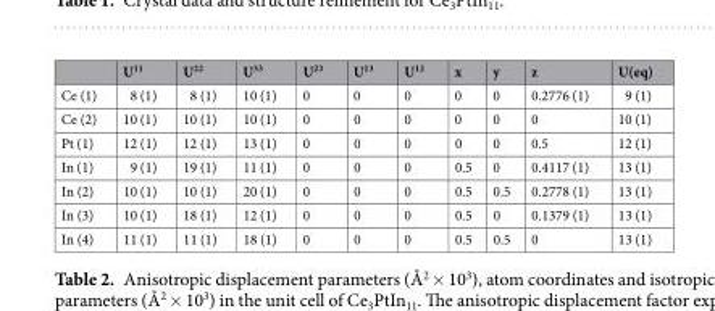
<table><thead><tr><td></td><td>U<sup>11</sup></td><td>U<sup>22</sup></td><td>U<sup>33</sup></td><td>U<sup>23</sup></td><td>U<sup>13</sup></td><td>U<sup>12</sup></td><td>x</td><td>y</td><td>z</td><td>U(eq)</td></tr></thead><tbody><tr><td>Ce (1)</td><td>8 (1)</td><td>8 (1)</td><td>10 (1)</td><td>0</td><td>0</td><td>0</td><td>0</td><td>0</td><td>0.2776 (1)</td><td>9 (1)</td></tr><tr><td>Ce (2)</td><td>10 (1)</td><td>10 (1)</td><td>10 (1)</td><td>0</td><td>0</td><td>0</td><td>0</td><td>0</td><td>0</td><td>10 (1)</td></tr><tr><td>Pt (1)</td><td>12 (1)</td><td>12 (1)</td><td>13 (1)</td><td>0</td><td>0</td><td>0</td><td>0</td><td>0</td><td>0.5</td><td>12 (1)</td></tr><tr><td>In (1)</td><td>9 (1)</td><td>19 (1)</td><td>11 (1)</td><td>0</td><td>0</td><td>0</td><td>0.5</td><td>0</td><td>0.4117 (1)</td><td>13 (1)</td></tr><tr><td>In (2)</td><td>10 (1)</td><td>10 (1)</td><td>20 (1)</td><td>0</td><td>0</td><td>0</td><td>0.5</td><td>0.5</td><td>0.2778 (1)</td><td>13 (1)</td></tr><tr><td>In (3)</td><td>10 (1)</td><td>18 (1)</td><td>12 (1)</td><td>0</td><td>0</td><td>0</td><td>0.5</td><td>0</td><td>0.1379 (1)</td><td>13 (1)</td></tr><tr><td>In (4)</td><td>11 (1)</td><td>11 (1)</td><td>18 (1)</td><td>0</td><td>0</td><td>0</td><td>0.5</td><td>0.5</td><td>0</td><td>13 (1)</td></tr></tbody></table>